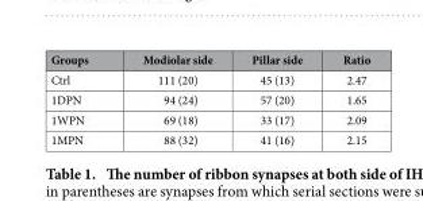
<table><thead><tr><td>Groups</td><td>Modiolar side</td><td>Pillar side</td><td>Ratio</td></tr></thead><tbody><tr><td>Ctrl</td><td>111 (20)</td><td>45 (13)</td><td>2.47</td></tr><tr><td>1DPN</td><td>94 (24)</td><td>57 (20)</td><td>1.65</td></tr><tr><td>1WPN</td><td>69 (18)</td><td>33 (17)</td><td>2.09</td></tr><tr><td>1MPN</td><td>88 (32)</td><td>41 (16)</td><td>2.15</td></tr></tbody></table>